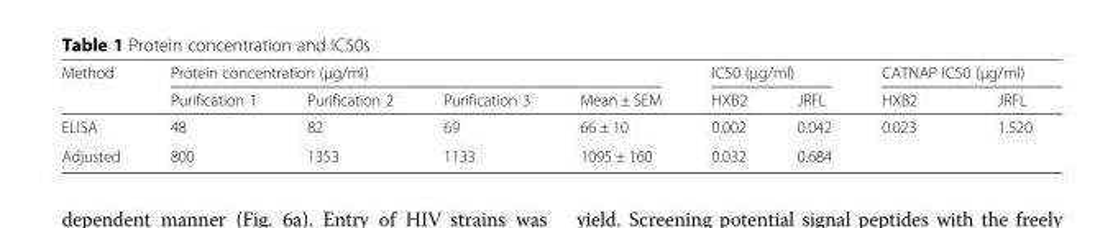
<table><thead><tr><td rowspan="2">Method</td><td colspan="4">Protein concentration (μg/ml)</td><td colspan="2">IC50 (μg/ml)</td><td colspan="2">CATNAP IC50 (μg/ml)</td></tr><tr><td>Purification 1</td><td>Purification 2</td><td>Purification 3</td><td>Mean ± SEM</td><td>HXB2</td><td>JRFL</td><td>HXB2</td><td>JRFL</td></tr></thead><tbody><tr><td>ELISA</td><td>48</td><td>82</td><td>69</td><td>66 ± 10</td><td>0.002</td><td>0.042</td><td rowspan="2">0.023</td><td rowspan="2">1.520</td></tr><tr><td>Adjusted</td><td>800</td><td>1353</td><td>1133</td><td>1095 ± 160</td><td>0.032</td><td>0.684</td></tr></tbody></table>